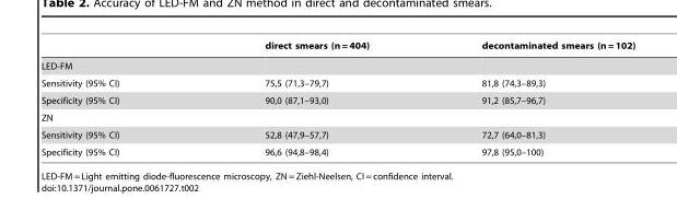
<table><thead><tr><td></td><td>direct smears (n = 404)</td><td>decontaminated smears (n = 102)</td></tr></thead><tbody><tr><td colspan="3">LED-FM</td></tr><tr><td>Sensitivity (95% CI)</td><td>75,5 (71,3–79,7)</td><td>81,8 (74,3–89,3)</td></tr><tr><td>Specificity (95% CI)</td><td>90,0 (87,1–93,0)</td><td>91,2 (85,7–96,7)</td></tr><tr><td colspan="3">ZN</td></tr><tr><td>Sensitivity (95% CI)</td><td>52,8 (47,9–57,7)</td><td>72,7 (64,0–81,3)</td></tr><tr><td>Specificity (95% CI)</td><td>96,6 (94,8–98,4)</td><td>97,8 (95,0–100)</td></tr></tbody></table>